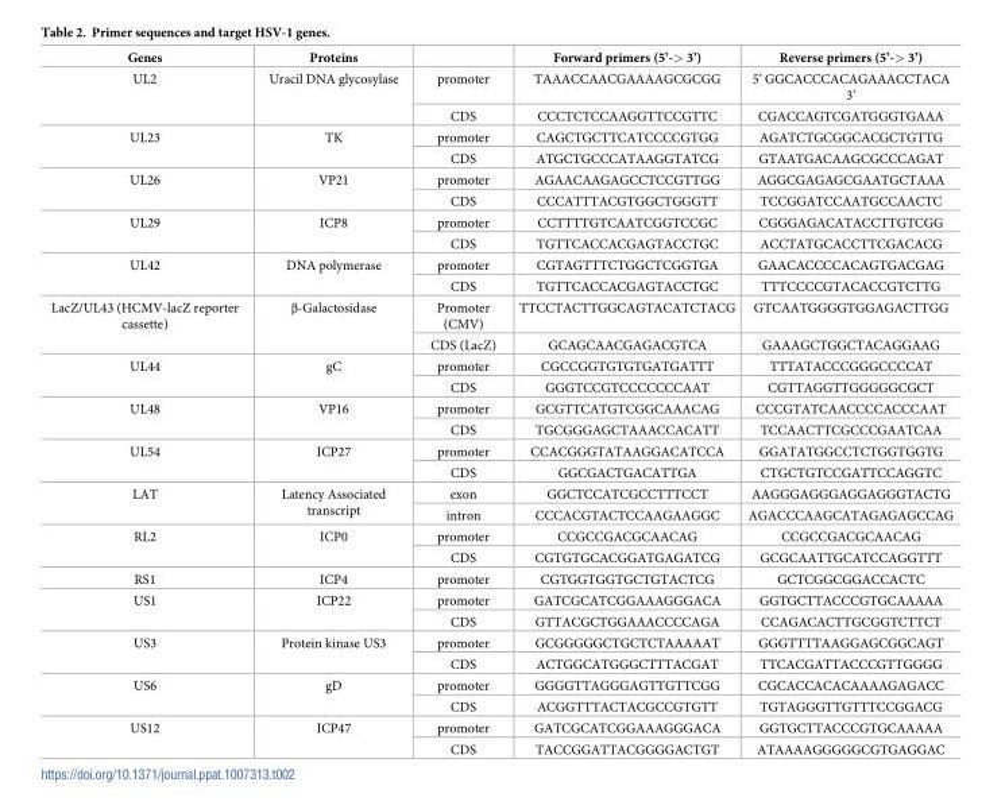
<table><thead><tr><td>Genes</td><td>Proteins</td><td></td><td>Forward primers (5’-&gt; 3’)</td><td>Reverse primers (5’-&gt; 3’)</td></tr></thead><tbody><tr><td rowspan="2">UL2</td><td rowspan="2">Uracil DNA glycosylase</td><td>promoter</td><td>TAAACCAACGAAAAGCGCGG</td><td>5’ GGCACCCACAGAAACCTACA 3’</td></tr><tr><td>CDS</td><td>CCCTCTCCAAGGTTCCGTTC</td><td>CGACCAGTCGATGGGTGAAA</td></tr><tr><td rowspan="2">UL23</td><td rowspan="2">TK</td><td>promoter</td><td>CAGCTGCTTCATCCCCGTGG</td><td>AGATCTGCGGCACGCTGTTG</td></tr><tr><td>CDS</td><td>ATGCTGCCCATAAGGTATCG</td><td>GTAATGACAAGCGCCCAGAT</td></tr><tr><td rowspan="2">UL26</td><td rowspan="2">VP21</td><td>promoter</td><td>AGAACAAGAGCCTCCGTTGG</td><td>AGGCGAGAGCGAATGCTAAA</td></tr><tr><td>CDS</td><td>CCCATTTACGTGGCTGGGTT</td><td>TCCGGATCCAATGCCAACTC</td></tr><tr><td rowspan="2">UL29</td><td rowspan="2">ICP8</td><td>promoter</td><td>CCTTTTGTCAATCGGTCCGC</td><td>CGGGAGACATACCTTGTCGG</td></tr><tr><td>CDS</td><td>TGTTCACCACGAGTACCTGC</td><td>ACCTATGCACCTTCGACACG</td></tr><tr><td rowspan="2">UL42</td><td rowspan="2">DNA polymerase</td><td>promoter</td><td>CGTAGTTTCTGGCTCGGTGA</td><td>GAACACCCCACAGTGACGAG</td></tr><tr><td>CDS</td><td>TGTTCACCACGAGTACCTGC</td><td>TTTCCCCGTACACCGTCTTG</td></tr><tr><td rowspan="2">LacZ/UL43 (HCMV-lacZ reporter cassette)</td><td rowspan="2">β-Galactosidase</td><td>Promoter (CMV)</td><td>TTCCTACTTGGCAGTACATCTACG</td><td>GTCAATGGGGTGGAGACTTGG</td></tr><tr><td>CDS (LacZ)</td><td>GCAGCAACGAGACGTCA</td><td>GAAAGCTGGCTACAGGAAG</td></tr><tr><td rowspan="2">UL44</td><td rowspan="2">gC</td><td>promoter</td><td>CGCCGGTGTGTGATGATTT</td><td>TTTATACCCGGGCCCCAT</td></tr><tr><td>CDS</td><td>GGGTCCGTCCCCCCCAAT</td><td>CGTTAGGTTGGGGGCGCT</td></tr><tr><td rowspan="2">UL48</td><td rowspan="2">VP16</td><td>promoter</td><td>GCGTTCATGTCGGCAAACAG</td><td>CCCGTATCAACCCCACCCAAT</td></tr><tr><td>CDS</td><td>TGCGGGAGCTAAACCACATT</td><td>TCCAACTTCGCCCGAATCAA</td></tr><tr><td rowspan="2">UL54</td><td rowspan="2">ICP27</td><td>promoter</td><td>CCACGGGTATAAGGACATCCA</td><td>GGATATGGCCTCTGGTGGTG</td></tr><tr><td>CDS</td><td>GGCGACTGACATTGA</td><td>CTGCTGTCCGATTCCAGGTC</td></tr><tr><td rowspan="2">LAT</td><td rowspan="2">Latency Associated transcript</td><td>exon</td><td>GGCTCCATCGCCTTTCCT</td><td>AAGGGAGGGAGGAGGGTACTG</td></tr><tr><td>intron</td><td>CCCACGTACTCCAAGAAGGC</td><td>AGACCCAAGCATAGAGAGCCAG</td></tr><tr><td rowspan="2">RL2</td><td rowspan="2">ICP0</td><td>promoter</td><td>CCGCCGACGCAACAG</td><td>CCGCCGACGCAACAG</td></tr><tr><td>CDS</td><td>CGTGTGCACGGATGAGATCG</td><td>GCGCAATTGCATCCAGGTTT</td></tr><tr><td>RS1</td><td>ICP4</td><td>promoter</td><td>CGTGGTGGTGCTGTACTCG</td><td>GCTCGGCGGACCACTC</td></tr><tr><td rowspan="2">US1</td><td rowspan="2">ICP22</td><td>promoter</td><td>GATCGCATCGGAAAGGGACA</td><td>GGTGCTTACCCGTGCAAAAA</td></tr><tr><td>CDS</td><td>GTTACGCTGGAAACCCCAGA</td><td>CCAGACACTTGCGGTCTTCT</td></tr><tr><td rowspan="2">US3</td><td rowspan="2">Protein kinase US3</td><td>promoter</td><td>GCGGGGGCTGCTCTAAAAAT</td><td>GGGTTTTAAGGAGCGGCAGT</td></tr><tr><td>CDS</td><td>ACTGGCATGGGCTTTACGAT</td><td>TTCACGATTACCCGTTGGGG</td></tr><tr><td rowspan="2">US6</td><td rowspan="2">gD</td><td>promoter</td><td>GGGGTTAGGGAGTTGTTCGG</td><td>CGCACCACACAAAAGAGACC</td></tr><tr><td>CDS</td><td>ACGGTTTACTACGCCGTGTT</td><td>TGTAGGGTTGTTTCCGGACG</td></tr><tr><td rowspan="2">US12</td><td rowspan="2">ICP47</td><td>promoter</td><td>GATCGCATCGGAAAGGGACA</td><td>GGTGCTTACCCGTGCAAAAA</td></tr><tr><td>CDS</td><td>TACCGGATTACGGGGACTGT</td><td>ATAAAAGGGGGCGTGAGGAC</td></tr></tbody></table>